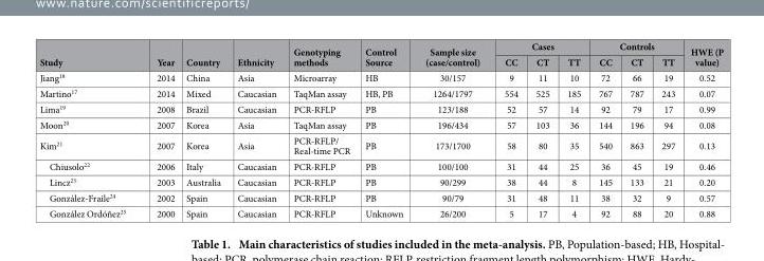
<table><thead><tr><td rowspan="2">Study</td><td rowspan="2">Year</td><td rowspan="2">Country</td><td rowspan="2">Ethnicity</td><td rowspan="2">Genotyping methods</td><td rowspan="2">Control Source</td><td rowspan="2">Sample size (case/control)</td><td colspan="3">Cases</td><td colspan="3">Controls</td><td rowspan="2">HWE (P value)</td></tr><tr><td>CC</td><td>CT</td><td>TT</td><td>CC</td><td>CT</td><td>TT</td></tr></thead><tbody><tr><td>Jiang<sup>18</sup></td><td>2014</td><td>China</td><td>Asia</td><td>Microarray</td><td>HB</td><td>30/157</td><td>9</td><td>11</td><td>10</td><td>72</td><td>66</td><td>19</td><td>0.52</td></tr><tr><td>Martino<sup>17</sup></td><td>2014</td><td>Mixed</td><td>Caucasian</td><td>TaqMan assay</td><td>HB, PB</td><td>1264/1797</td><td>554</td><td>525</td><td>185</td><td>767</td><td>787</td><td>243</td><td>0.07</td></tr><tr><td>Lima<sup>19</sup></td><td>2008</td><td>Brazil</td><td>Caucasian</td><td>PCR-RFLP</td><td>PB</td><td>123/188</td><td>52</td><td>57</td><td>14</td><td>92</td><td>79</td><td>17</td><td>0.99</td></tr><tr><td>Moon<sup>20</sup></td><td>2007</td><td>Korea</td><td>Asia</td><td>TaqMan assay</td><td>PB</td><td>196/434</td><td>57</td><td>103</td><td>36</td><td>144</td><td>196</td><td>94</td><td>0.08</td></tr><tr><td>Kim<sup>21</sup></td><td>2007</td><td>Korea</td><td>Asia</td><td>PCR-RFLP/ Real-time PCR</td><td>PB</td><td>173/1700</td><td>58</td><td>80</td><td>35</td><td>540</td><td>863</td><td>297</td><td>0.13</td></tr><tr><td>Chiusolo<sup>22</sup></td><td>2006</td><td>Italy</td><td>Caucasian</td><td>PCR-RFLP</td><td>PB</td><td>100/100</td><td>31</td><td>44</td><td>25</td><td>36</td><td>45</td><td>19</td><td>0.46</td></tr><tr><td>Lincz<sup>23</sup></td><td>2003</td><td>Australia</td><td>Caucasian</td><td>PCR-RFLP</td><td>PB</td><td>90/299</td><td>38</td><td>44</td><td>8</td><td>145</td><td>133</td><td>21</td><td>0.20</td></tr><tr><td>González-Fraile<sup>24</sup></td><td>2002</td><td>Spain</td><td>Caucasian</td><td>PCR-RFLP</td><td>PB</td><td>90/79</td><td>31</td><td>48</td><td>11</td><td>38</td><td>32</td><td>9</td><td>0.57</td></tr><tr><td>González Ordóñez<sup>25</sup></td><td>2000</td><td>Spain</td><td>Caucasian</td><td>PCR-RFLP</td><td>Unknown</td><td>26/200</td><td>5</td><td>17</td><td>4</td><td>92</td><td>88</td><td>20</td><td>0.88</td></tr></tbody></table>